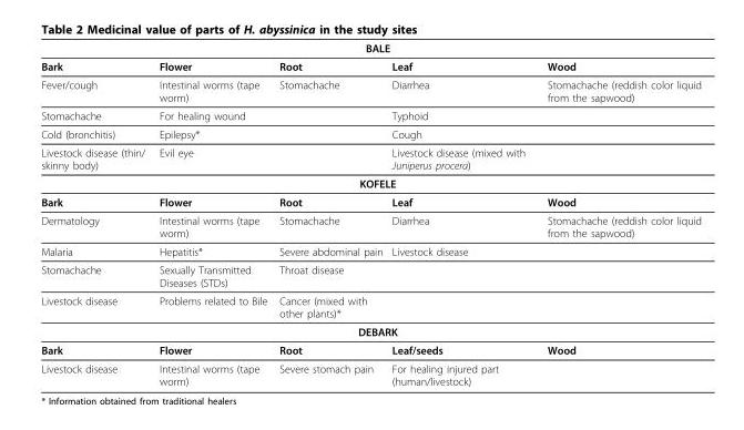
<table><thead><tr><td colspan="5">BALE</td></tr><tr><td>Bark</td><td>Flower</td><td>Root</td><td>Leaf</td><td>Wood</td></tr></thead><tbody><tr><td>Fever/cough</td><td>Intestinal worms (tape worm)</td><td>Stomachache</td><td>Diarrhea</td><td>Stomachache (reddish color liquid from the sapwood)</td></tr><tr><td>Stomachache</td><td>For healing wound</td><td></td><td>Typhoid</td><td></td></tr><tr><td>Cold (bronchitis)</td><td>Epilepsy*</td><td></td><td>Cough</td><td></td></tr><tr><td>Livestock disease (thin/ skinny body)</td><td>Evil eye</td><td></td><td>Livestock disease (mixed with Juniperus procera)</td><td></td></tr><tr><td colspan="5">KOFELE</td></tr><tr><td>Bark</td><td>Flower</td><td>Root</td><td>Leaf</td><td>Wood</td></tr><tr><td>Dermatology</td><td>Intestinal worms (tape worm)</td><td>Stomachache</td><td>Diarrhea</td><td>Stomachache (reddish color liquid from the sapwood)</td></tr><tr><td>Malaria</td><td>Hepatitis*</td><td>Severe abdominal pain</td><td>Livestock disease</td><td></td></tr><tr><td>Stomachache</td><td>Sexually Transmitted Diseases (STDs)</td><td>Throat disease</td><td></td><td></td></tr><tr><td>Livestock disease</td><td>Problems related to Bile</td><td>Cancer (mixed with other plants)*</td><td></td><td></td></tr><tr><td colspan="5">DEBARK</td></tr><tr><td>Bark</td><td>Flower</td><td>Root</td><td>Leaf/seeds</td><td>Wood</td></tr><tr><td>Livestock disease</td><td>Intestinal worms (tape worm)</td><td>Severe stomach pain</td><td>For healing injured part (human/livestock)</td><td></td></tr></tbody></table>